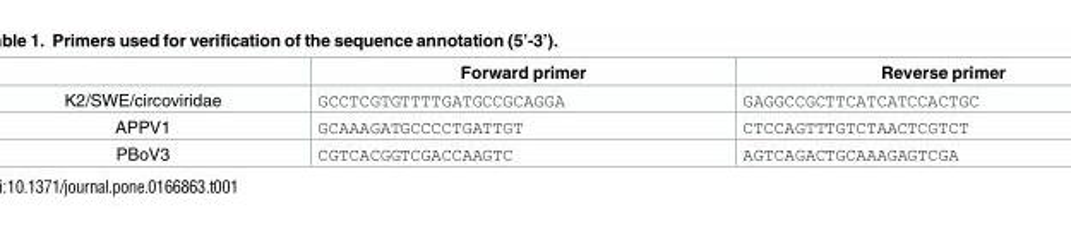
<table><thead><tr><td></td><td>Forward primer</td><td>Reverse primer</td></tr></thead><tbody><tr><td>K2/SWE/circoviridae</td><td>GCCTCGTGTTTTGATGCCGCAGGA</td><td>GAGGCCGCTTCATCATCCACTGC</td></tr><tr><td>APPV1</td><td>GCAAAGATGCCCCTGATTGT</td><td>CTCCAGTTTGTCTAACTCGTCT</td></tr><tr><td>PBoV3</td><td>CGTCACGGTCGACCAAGTC</td><td>AGTCAGACTGCAAAGAGTCGA</td></tr></tbody></table>